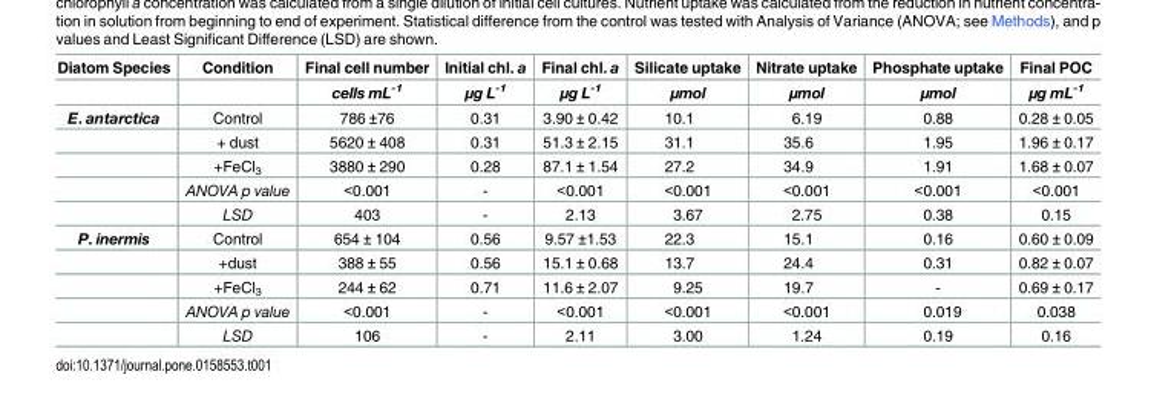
<table><thead><tr><td rowspan="2">Diatom Species</td><td rowspan="2">Condition</td><td rowspan="2">Final cell number cells mL<sup>-1</sup></td><td rowspan="2">Initial chl. a μg L<sup>-1</sup></td><td rowspan="2">Final chl. a μg L<sup>-1</sup></td><td rowspan="2">Silicate uptake μmol</td><td rowspan="2">Nitrate uptake μmol</td><td rowspan="2">Phosphate uptake μmol</td><td rowspan="2">Final POC μg mL<sup>-1</sup></td></tr><tr></tr></thead><tbody><tr><td rowspan="5">E. antarctica</td><td>Control</td><td>786 ±76</td><td>0.31</td><td>3.90 ± 0.42</td><td>10.1</td><td>6.19</td><td>0.88</td><td>0.28 ± 0.05</td></tr><tr><td>+ dust</td><td>5620 ± 408</td><td>0.31</td><td>51.3 ± 2.15</td><td>31.1</td><td>35.6</td><td>1.95</td><td>1.96 ± 0.17</td></tr><tr><td>+FeCl<sub>3</sub></td><td>3880 ± 290</td><td>0.28</td><td>87.1 ± 1.54</td><td>27.2</td><td>34.9</td><td>1.91</td><td>1.68 ± 0.07</td></tr><tr><td>ANOVA p value</td><td>&lt;0.001</td><td>-</td><td>&lt;0.001</td><td>&lt;0.001</td><td>&lt;0.001</td><td>&lt;0.001</td><td>&lt;0.001</td></tr><tr><td>LSD</td><td>403</td><td>-</td><td>2.13</td><td>3.67</td><td>2.75</td><td>0.38</td><td>0.15</td></tr><tr><td rowspan="5">P. inermis</td><td>Control</td><td>654 ± 104</td><td>0.56</td><td>9.57 ±1.53</td><td>22.3</td><td>15.1</td><td>0.16</td><td>0.60 ± 0.09</td></tr><tr><td>+dust</td><td>388 ± 55</td><td>0.56</td><td>15.1 ± 0.68</td><td>13.7</td><td>24.4</td><td>0.31</td><td>0.82 ± 0.07</td></tr><tr><td>+FeCl<sub>3</sub></td><td>244 ± 62</td><td>0.71</td><td>11.6 ± 2.07</td><td>9.25</td><td>19.7</td><td>-</td><td>0.69 ± 0.17</td></tr><tr><td>ANOVA p value</td><td>&lt;0.001</td><td>-</td><td>&lt;0.001</td><td>&lt;0.001</td><td>&lt;0.001</td><td>0.019</td><td>0.038</td></tr><tr><td>LSD</td><td>106</td><td>-</td><td>2.11</td><td>3.00</td><td>1.24</td><td>0.19</td><td>0.16</td></tr></tbody></table>